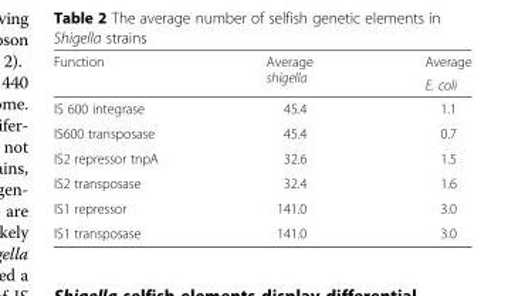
<table><thead><tr><td rowspan="2">Function</td><td rowspan="2">Average shigella</td><td rowspan="2">Average E. coli</td></tr><tr></tr></thead><tbody><tr><td>IS 600 integrase</td><td>45.4</td><td>1.1</td></tr><tr><td>IS600 transposase</td><td>45.4</td><td>0.7</td></tr><tr><td>IS2 repressor tnpA</td><td>32.6</td><td>1.5</td></tr><tr><td>IS2 transposase</td><td>32.4</td><td>1.6</td></tr><tr><td>IS1 repressor</td><td>141.0</td><td>3.0</td></tr><tr><td>IS1 transposase</td><td>141.0</td><td>3.0</td></tr></tbody></table>